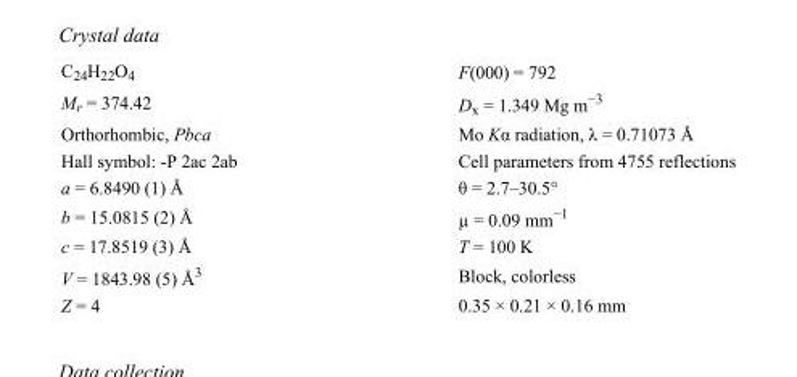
<table><tbody><tr><td>C<sub>24</sub>H<sub>22</sub>O<sub>4</sub></td><td>F(000) = 792</td></tr><tr><td>M<sub>r</sub> = 374.42</td><td>D<sub>x</sub> = 1.349 Mg m<sup>−3</sup></td></tr><tr><td>Orthorhombic, Pbca</td><td>Mo Kα radiation, λ = 0.71073 Å</td></tr><tr><td>Hall symbol: -P 2ac 2ab</td><td>Cell parameters from 4755 reflections</td></tr><tr><td>a = 6.8490 (1) Å</td><td>θ = 2.7–30.5°</td></tr><tr><td>b = 15.0815 (2) Å</td><td>µ = 0.09 mm<sup>−1</sup></td></tr><tr><td>c = 17.8519 (3) Å</td><td>T = 100 K</td></tr><tr><td>V = 1843.98 (5) Å<sup>3</sup></td><td>Block, colorless</td></tr><tr><td>Z = 4</td><td>0.35 × 0.21 × 0.16 mm</td></tr></tbody></table>